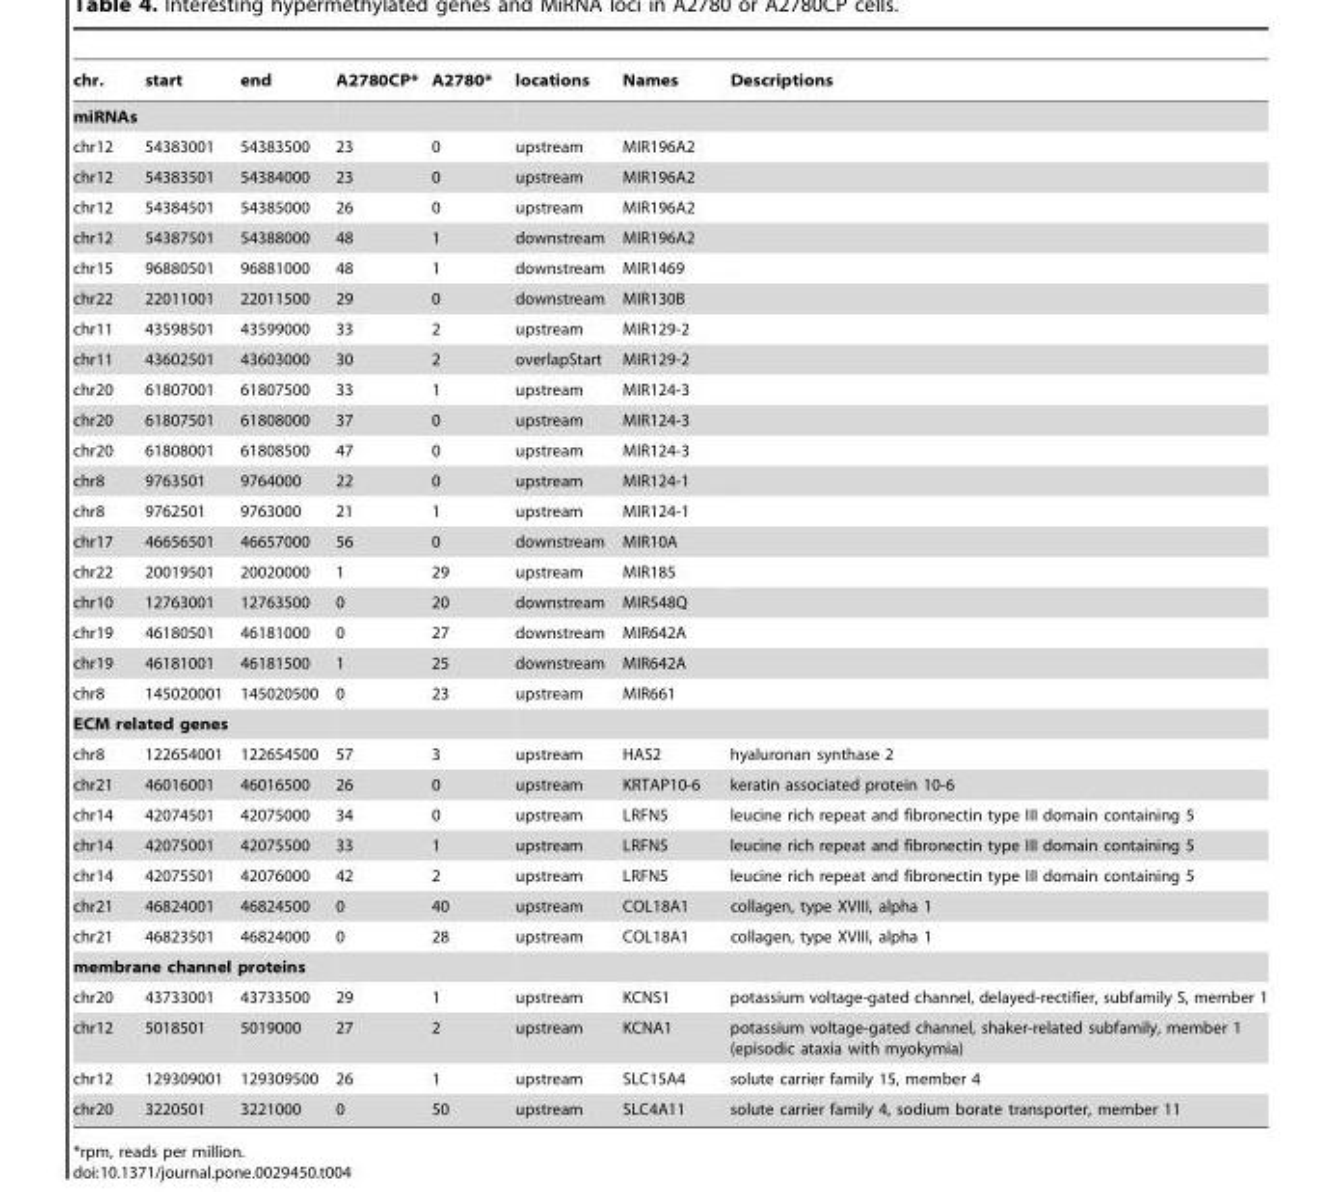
<table><thead><tr><td>chr.</td><td>start</td><td>end</td><td>A2780CP*</td><td>A2780*</td><td>locations</td><td>Names</td><td>Descriptions</td></tr></thead><tbody><tr><td colspan="8">miRNAs</td></tr><tr><td>chr12</td><td>54383001</td><td>54383500</td><td>23</td><td>0</td><td>upstream</td><td>MIR196A2</td><td></td></tr><tr><td>chr12</td><td>54383501</td><td>54384000</td><td>23</td><td>0</td><td>upstream</td><td>MIR196A2</td><td></td></tr><tr><td>chr12</td><td>54384501</td><td>54385000</td><td>26</td><td>0</td><td>upstream</td><td>MIR196A2</td><td></td></tr><tr><td>chr12</td><td>54387501</td><td>54388000</td><td>48</td><td>1</td><td>downstream</td><td>MIR196A2</td><td></td></tr><tr><td>chr15</td><td>96880501</td><td>96881000</td><td>48</td><td>1</td><td>downstream</td><td>MIR1469</td><td></td></tr><tr><td>chr22</td><td>22011001</td><td>22011500</td><td>29</td><td>0</td><td>downstream</td><td>MIR130B</td><td></td></tr><tr><td>chr11</td><td>43598501</td><td>43599000</td><td>33</td><td>2</td><td>upstream</td><td>MIR129-2</td><td></td></tr><tr><td>chr11</td><td>43602501</td><td>43603000</td><td>30</td><td>2</td><td>overlapStart</td><td>MIR129-2</td><td></td></tr><tr><td>chr20</td><td>61807001</td><td>61807500</td><td>33</td><td>1</td><td>upstream</td><td>MIR124-3</td><td></td></tr><tr><td>chr20</td><td>61807501</td><td>61808000</td><td>37</td><td>0</td><td>upstream</td><td>MIR124-3</td><td></td></tr><tr><td>chr20</td><td>61808001</td><td>61808500</td><td>47</td><td>0</td><td>upstream</td><td>MIR124-3</td><td></td></tr><tr><td>chr8</td><td>9763501</td><td>9764000</td><td>22</td><td>0</td><td>upstream</td><td>MIR124-1</td><td></td></tr><tr><td>chr8</td><td>9762501</td><td>9763000</td><td>21</td><td>1</td><td>upstream</td><td>MIR124-1</td><td></td></tr><tr><td>chr17</td><td>46656501</td><td>46657000</td><td>56</td><td>0</td><td>downstream</td><td>MIR10A</td><td></td></tr><tr><td>chr22</td><td>20019501</td><td>20020000</td><td>1</td><td>29</td><td>upstream</td><td>MIR185</td><td></td></tr><tr><td>chr10</td><td>12763001</td><td>12763500</td><td>0</td><td>20</td><td>downstream</td><td>MIR548Q</td><td></td></tr><tr><td>chr19</td><td>46180501</td><td>46181000</td><td>0</td><td>27</td><td>downstream</td><td>MIR642A</td><td></td></tr><tr><td>chr19</td><td>46181001</td><td>46181500</td><td>1</td><td>25</td><td>downstream</td><td>MIR642A</td><td></td></tr><tr><td>chr8</td><td>145020001</td><td>145020500</td><td>0</td><td>23</td><td>upstream</td><td>MIR661</td><td></td></tr><tr><td colspan="8">ECM related genes</td></tr><tr><td>chr8</td><td>122654001</td><td>122654500</td><td>57</td><td>3</td><td>upstream</td><td>HAS2</td><td>hyaluronan synthase 2</td></tr><tr><td>chr21</td><td>46016001</td><td>46016500</td><td>26</td><td>0</td><td>upstream</td><td>KRTAP10-6</td><td>keratin associated protein 10-6</td></tr><tr><td>chr14</td><td>42074501</td><td>42075000</td><td>34</td><td>0</td><td>upstream</td><td>LRFN5</td><td>leucine rich repeat and fibronectin type III domain containing 5</td></tr><tr><td>chr14</td><td>42075001</td><td>42075500</td><td>33</td><td>1</td><td>upstream</td><td>LRFN5</td><td>leucine rich repeat and fibronectin type III domain containing 5</td></tr><tr><td>chr14</td><td>42075501</td><td>42076000</td><td>42</td><td>2</td><td>upstream</td><td>LRFN5</td><td>leucine rich repeat and fibronectin type III domain containing 5</td></tr><tr><td>chr21</td><td>46824001</td><td>46824500</td><td>0</td><td>40</td><td>upstream</td><td>COL18A1</td><td>collagen, type XVIII, alpha 1</td></tr><tr><td>chr21</td><td>46823501</td><td>46824000</td><td>0</td><td>28</td><td>upstream</td><td>COL18A1</td><td>collagen, type XVIII, alpha 1</td></tr><tr><td colspan="8">membrane channel proteins</td></tr><tr><td>chr20</td><td>43733001</td><td>43733500</td><td>29</td><td>1</td><td>upstream</td><td>KCNS1</td><td>potassium voltage-gated channel, delayed-rectifier, subfamily S, member 1</td></tr><tr><td>chr12</td><td>5018501</td><td>5019000</td><td>27</td><td>2</td><td>upstream</td><td>KCNA1</td><td>potassium voltage-gated channel, shaker-related subfamily, member 1 (episodic ataxia with myokymia)</td></tr><tr><td>chr12</td><td>129309001</td><td>129309500</td><td>26</td><td>1</td><td>upstream</td><td>SLC15A4</td><td>solute carrier family 15, member 4</td></tr><tr><td>chr20</td><td>3220501</td><td>3221000</td><td>0</td><td>50</td><td>upstream</td><td>SLC4A11</td><td>solute carrier family 4, sodium borate transporter, member 11</td></tr></tbody></table>